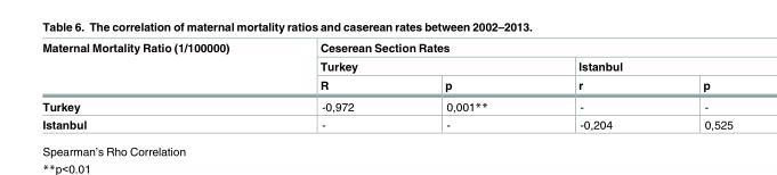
<table><thead><tr><td rowspan="3">Maternal Mortality Ratio (1/100000)</td><td colspan="4">Ceserean Section Rates</td></tr><tr><td colspan="2">Turkey</td><td colspan="2">Istanbul</td></tr><tr><td>R</td><td>p</td><td>r</td><td>p</td></tr></thead><tbody><tr><td>Turkey</td><td>-0,972</td><td>0,001**</td><td>-</td><td>-</td></tr><tr><td>Istanbul</td><td>-</td><td>-</td><td>-0,204</td><td>0,525</td></tr></tbody></table>